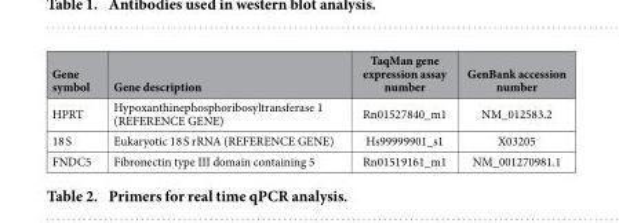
<table><thead><tr><td>Gene symbol</td><td>Gene description</td><td>TaqMan gene expression assay number</td><td>GenBank accession number</td></tr></thead><tbody><tr><td>HPRT</td><td>Hypoxanthinephosphoribosyltransferase 1 (REFERENCE GENE)</td><td>Rn01527840_m1</td><td>NM_012583.2</td></tr><tr><td>18 S</td><td>Eukaryotic 18 S rRNA (REFERENCE GENE)</td><td>Hs99999901_s1</td><td>X03205</td></tr><tr><td>FNDC5</td><td>Fibronectin type III domain containing 5</td><td>Rn01519161_m1</td><td>NM_001270981.1</td></tr></tbody></table>